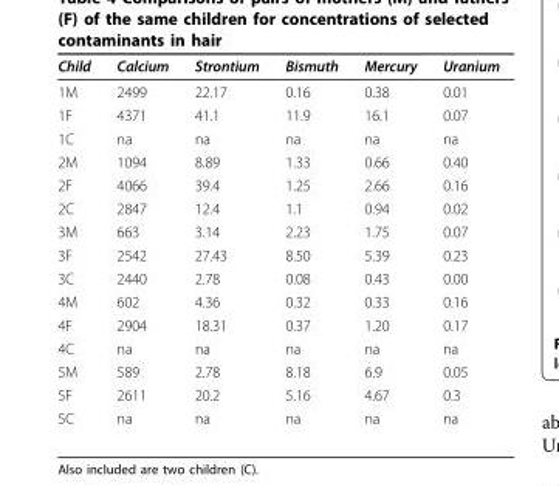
<table><thead><tr><td>Child</td><td>Calcium</td><td>Strontium</td><td>Bismuth</td><td>Mercury</td><td>Uranium</td></tr></thead><tbody><tr><td>1M</td><td>2499</td><td>22.17</td><td>0.16</td><td>0.38</td><td>0.01</td></tr><tr><td>1F</td><td>4371</td><td>41.1</td><td>11.9</td><td>16.1</td><td>0.07</td></tr><tr><td>1C</td><td>na</td><td>na</td><td>na</td><td>na</td><td>na</td></tr><tr><td>2M</td><td>1094</td><td>8.89</td><td>1.33</td><td>0.66</td><td>0.40</td></tr><tr><td>2F</td><td>4066</td><td>39.4</td><td>1.25</td><td>2.66</td><td>0.16</td></tr><tr><td>2C</td><td>2847</td><td>12.4</td><td>1.1</td><td>0.94</td><td>0.02</td></tr><tr><td>3M</td><td>663</td><td>3.14</td><td>2.23</td><td>1.75</td><td>0.07</td></tr><tr><td>3F</td><td>2542</td><td>27.43</td><td>8.50</td><td>5.39</td><td>0.23</td></tr><tr><td>3C</td><td>2440</td><td>2.78</td><td>0.08</td><td>0.43</td><td>0.00</td></tr><tr><td>4M</td><td>602</td><td>4.36</td><td>0.32</td><td>0.33</td><td>0.16</td></tr><tr><td>4F</td><td>2904</td><td>18.31</td><td>0.37</td><td>1.20</td><td>0.17</td></tr><tr><td>4C</td><td>na</td><td>na</td><td>na</td><td>na</td><td>na</td></tr><tr><td>5M</td><td>589</td><td>2.78</td><td>8.18</td><td>6.9</td><td>0.05</td></tr><tr><td>5F</td><td>2611</td><td>20.2</td><td>5.16</td><td>4.67</td><td>0.3</td></tr><tr><td>5C</td><td>na</td><td>na</td><td>na</td><td>na</td><td>na</td></tr></tbody></table>